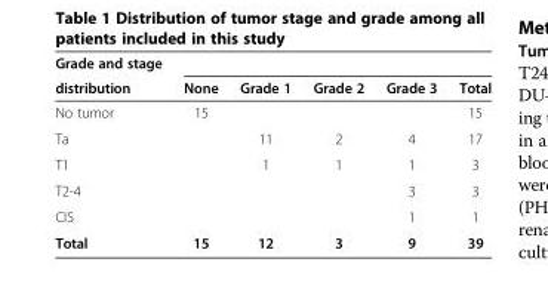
<table><thead><tr><td rowspan="2">Grade and stage distribution</td><td rowspan="2">None</td><td rowspan="2">Grade 1</td><td rowspan="2">Grade 2</td><td rowspan="2">Grade 3</td><td rowspan="2">Total</td></tr><tr></tr></thead><tbody><tr><td>No tumor</td><td>15</td><td></td><td></td><td></td><td>15</td></tr><tr><td>Ta</td><td></td><td>11</td><td>2</td><td>4</td><td>17</td></tr><tr><td>T1</td><td></td><td>1</td><td>1</td><td>1</td><td>3</td></tr><tr><td>T2-4</td><td></td><td></td><td></td><td>3</td><td>3</td></tr><tr><td>CIS</td><td></td><td></td><td></td><td>1</td><td>1</td></tr><tr><td>Total</td><td>15</td><td>12</td><td>3</td><td>9</td><td>39</td></tr></tbody></table>